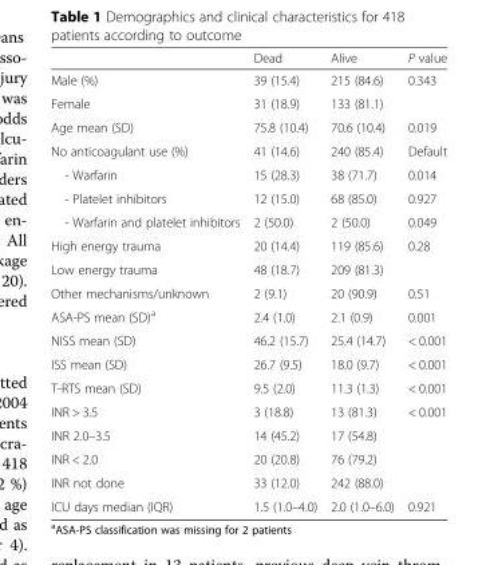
<table><thead><tr><td></td><td>Dead</td><td>Alive</td><td>P value</td></tr></thead><tbody><tr><td>Male (%)</td><td>39 (15.4)</td><td>215 (84.6)</td><td rowspan="2">0.343</td></tr><tr><td>Female</td><td>31 (18.9)</td><td>133 (81.1)</td></tr><tr><td>Age mean (SD)</td><td>75.8 (10.4)</td><td>70.6 (10.4)</td><td>0.019</td></tr><tr><td>No anticoagulant use (%)</td><td>41 (14.6)</td><td>240 (85.4)</td><td>Default</td></tr><tr><td>- Warfarin</td><td>15 (28.3)</td><td>38 (71.7)</td><td>0.014</td></tr><tr><td>- Platelet inhibitors</td><td>12 (15.0)</td><td>68 (85.0)</td><td>0.927</td></tr><tr><td>- Warfarin and platelet inhibitors</td><td>2 (50.0)</td><td>2 (50.0)</td><td>0.049</td></tr><tr><td>High energy trauma</td><td>20 (14.4)</td><td>119 (85.6)</td><td rowspan="2">0.28</td></tr><tr><td>Low energy trauma</td><td>48 (18.7)</td><td>209 (81.3)</td></tr><tr><td>Other mechanisms/unknown</td><td>2 (9.1)</td><td>20 (90.9)</td><td>0.51</td></tr><tr><td>ASA-PS mean (SD)<sup>a</sup></td><td>2.4 (1.0)</td><td>2.1 (0.9)</td><td>0.001</td></tr><tr><td>NISS mean (SD)</td><td>46.2 (15.7)</td><td>25.4 (14.7)</td><td>&lt; 0.001</td></tr><tr><td>ISS mean (SD)</td><td>26.7 (9.5)</td><td>18.0 (9.7)</td><td>&lt; 0.001</td></tr><tr><td>T-RTS mean (SD)</td><td>9.5 (2.0)</td><td>11.3 (1.3)</td><td>&lt; 0.001</td></tr><tr><td>INR &gt; 3.5</td><td>3 (18.8)</td><td>13 (81.3)</td><td rowspan="4">&lt; 0.001</td></tr><tr><td>INR 2.0–3.5</td><td>14 (45.2)</td><td>17 (54.8)</td></tr><tr><td>INR &lt; 2.0</td><td>20 (20.8)</td><td>76 (79.2)</td></tr><tr><td>INR not done</td><td>33 (12.0)</td><td>242 (88.0)</td></tr><tr><td>ICU days median (IQR)</td><td>1.5 (1.0–4.0)</td><td>2.0 (1.0–6.0)</td><td>0.921</td></tr></tbody></table>